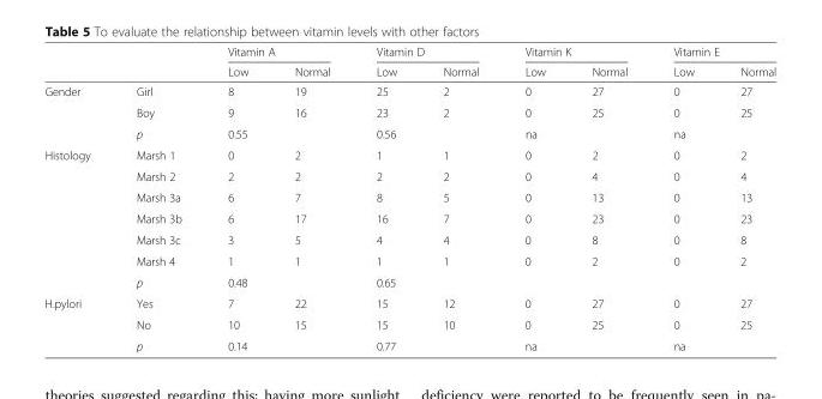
<table><thead><tr><td rowspan="2"></td><td rowspan="2"></td><td colspan="2">Vitamin A</td><td colspan="2">Vitamin D</td><td colspan="2">Vitamin K</td><td colspan="2">Vitamin E</td></tr><tr><td>Low</td><td>Normal</td><td>Low</td><td>Normal</td><td>Low</td><td>Normal</td><td>Low</td><td>Normal</td></tr></thead><tbody><tr><td rowspan="3">Gender</td><td>Girl</td><td>8</td><td>19</td><td>25</td><td>2</td><td>0</td><td>27</td><td>0</td><td>27</td></tr><tr><td>Boy</td><td>9</td><td>16</td><td>23</td><td>2</td><td>0</td><td>25</td><td>0</td><td>25</td></tr><tr><td>p</td><td colspan="2">0.55</td><td colspan="2">0.56</td><td colspan="2">na</td><td colspan="2">na</td></tr><tr><td rowspan="7">Histology</td><td>Marsh 1</td><td>0</td><td>2</td><td>1</td><td>1</td><td>0</td><td>2</td><td>0</td><td>2</td></tr><tr><td>Marsh 2</td><td>2</td><td>2</td><td>2</td><td>2</td><td>0</td><td>4</td><td>0</td><td>4</td></tr><tr><td>Marsh 3a</td><td>6</td><td>7</td><td>8</td><td>5</td><td>0</td><td>13</td><td>0</td><td>13</td></tr><tr><td>Marsh 3b</td><td>6</td><td>17</td><td>16</td><td>7</td><td>0</td><td>23</td><td>0</td><td>23</td></tr><tr><td>Marsh 3c</td><td>3</td><td>5</td><td>4</td><td>4</td><td>0</td><td>8</td><td>0</td><td>8</td></tr><tr><td>Marsh 4</td><td>1</td><td>1</td><td>1</td><td>1</td><td>0</td><td>2</td><td>0</td><td>2</td></tr><tr><td>p</td><td colspan="2">0.48</td><td colspan="2">0.65</td><td colspan="2"></td><td colspan="2"></td></tr><tr><td rowspan="3">H.pylori</td><td>Yes</td><td>7</td><td>22</td><td>15</td><td>12</td><td>0</td><td>27</td><td>0</td><td>27</td></tr><tr><td>No</td><td>10</td><td>15</td><td>15</td><td>10</td><td>0</td><td>25</td><td>0</td><td>25</td></tr><tr><td>p</td><td colspan="2">0.14</td><td colspan="2">0.77</td><td colspan="2">na</td><td colspan="2">na</td></tr></tbody></table>